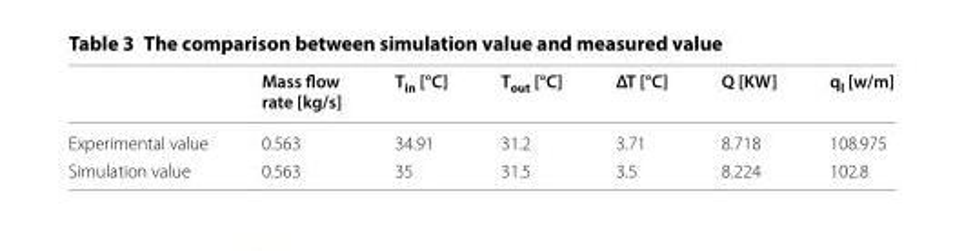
<table><thead><tr><td></td><td>Mass flow rate [kg/s]</td><td>T<sub>in</sub> [°C]</td><td>T<sub>out</sub> [°C]</td><td>ΔT [°C]</td><td>Q [KW]</td><td>q<sub>l</sub> [w/m]</td></tr></thead><tbody><tr><td>Experimental value</td><td>0.563</td><td>34.91</td><td>31.2</td><td>3.71</td><td>8.718</td><td>108.975</td></tr><tr><td>Simulation value</td><td>0.563</td><td>35</td><td>31.5</td><td>3.5</td><td>8.224</td><td>102.8</td></tr></tbody></table>